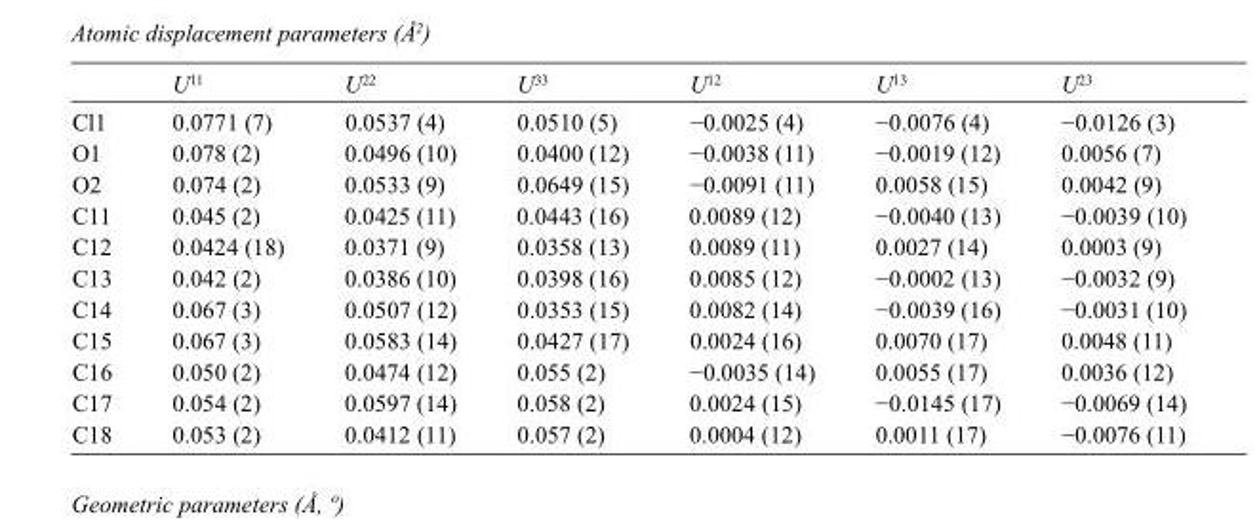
<table><thead><tr><td></td><td>U<sup>11</sup></td><td>U<sup>22</sup></td><td>U<sup>33</sup></td><td>U<sup>12</sup></td><td>U<sup>13</sup></td><td>U<sup>23</sup></td></tr></thead><tbody><tr><td>Cl1</td><td>0.0771 (7)</td><td>0.0537 (4)</td><td>0.0510 (5)</td><td>−0.0025 (4)</td><td>−0.0076 (4)</td><td>−0.0126 (3)</td></tr><tr><td>O1</td><td>0.078 (2)</td><td>0.0496 (10)</td><td>0.0400 (12)</td><td>−0.0038 (11)</td><td>−0.0019 (12)</td><td>0.0056 (7)</td></tr><tr><td>O2</td><td>0.074 (2)</td><td>0.0533 (9)</td><td>0.0649 (15)</td><td>−0.0091 (11)</td><td>0.0058 (15)</td><td>0.0042 (9)</td></tr><tr><td>C11</td><td>0.045 (2)</td><td>0.0425 (11)</td><td>0.0443 (16)</td><td>0.0089 (12)</td><td>−0.0040 (13)</td><td>−0.0039 (10)</td></tr><tr><td>C12</td><td>0.0424 (18)</td><td>0.0371 (9)</td><td>0.0358 (13)</td><td>0.0089 (11)</td><td>0.0027 (14)</td><td>0.0003 (9)</td></tr><tr><td>C13</td><td>0.042 (2)</td><td>0.0386 (10)</td><td>0.0398 (16)</td><td>0.0085 (12)</td><td>−0.0002 (13)</td><td>−0.0032 (9)</td></tr><tr><td>C14</td><td>0.067 (3)</td><td>0.0507 (12)</td><td>0.0353 (15)</td><td>0.0082 (14)</td><td>−0.0039 (16)</td><td>−0.0031 (10)</td></tr><tr><td>C15</td><td>0.067 (3)</td><td>0.0583 (14)</td><td>0.0427 (17)</td><td>0.0024 (16)</td><td>0.0070 (17)</td><td>0.0048 (11)</td></tr><tr><td>C16</td><td>0.050 (2)</td><td>0.0474 (12)</td><td>0.055 (2)</td><td>−0.0035 (14)</td><td>0.0055 (17)</td><td>0.0036 (12)</td></tr><tr><td>C17</td><td>0.054 (2)</td><td>0.0597 (14)</td><td>0.058 (2)</td><td>0.0024 (15)</td><td>−0.0145 (17)</td><td>−0.0069 (14)</td></tr><tr><td>C18</td><td>0.053 (2)</td><td>0.0412 (11)</td><td>0.057 (2)</td><td>0.0004 (12)</td><td>0.0011 (17)</td><td>−0.0076 (11)</td></tr></tbody></table>